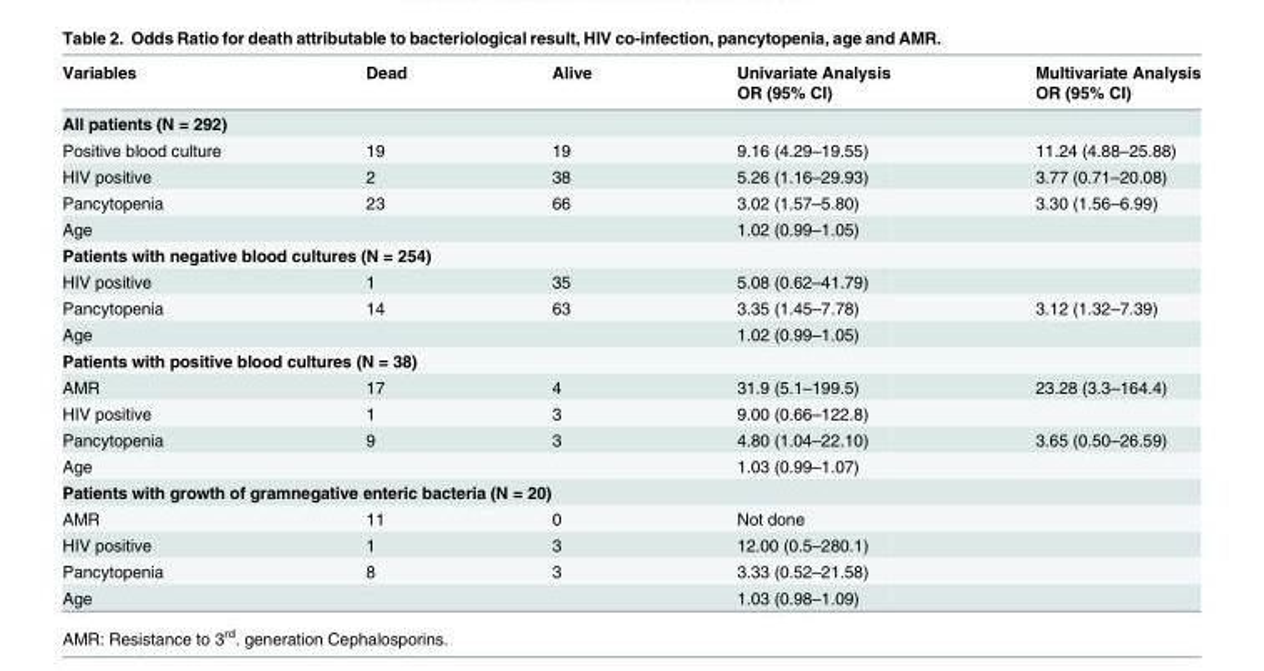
<table><thead><tr><td rowspan="2">Variables</td><td rowspan="2">Dead</td><td rowspan="2">Alive</td><td rowspan="2">Univariate Analysis OR (95% CI)</td><td rowspan="2">Multivariate Analysis OR (95% CI)</td></tr><tr></tr></thead><tbody><tr><td colspan="5">All patients (N = 292)</td></tr><tr><td>Positive blood culture</td><td>19</td><td>19</td><td>9.16 (4.29–19.55)</td><td>11.24 (4.88–25.88)</td></tr><tr><td>HIV positive</td><td>2</td><td>38</td><td>5.26 (1.16–29.93)</td><td>3.77 (0.71–20.08)</td></tr><tr><td>Pancytopenia</td><td>23</td><td>66</td><td>3.02 (1.57–5.80)</td><td>3.30 (1.56–6.99)</td></tr><tr><td>Age</td><td></td><td></td><td>1.02 (0.99–1.05)</td><td></td></tr><tr><td colspan="5">Patients with negative blood cultures (N = 254)</td></tr><tr><td>HIV positive</td><td>1</td><td>35</td><td>5.08 (0.62–41.79)</td><td></td></tr><tr><td>Pancytopenia</td><td>14</td><td>63</td><td>3.35 (1.45–7.78)</td><td>3.12 (1.32–7.39)</td></tr><tr><td>Age</td><td></td><td></td><td>1.02 (0.99–1.05)</td><td></td></tr><tr><td colspan="5">Patients with positive blood cultures (N = 38)</td></tr><tr><td>AMR</td><td>17</td><td>4</td><td>31.9 (5.1–199.5)</td><td>23.28 (3.3–164.4)</td></tr><tr><td>HIV positive</td><td>1</td><td>3</td><td>9.00 (0.66–122.8)</td><td></td></tr><tr><td>Pancytopenia</td><td>9</td><td>3</td><td>4.80 (1.04–22.10)</td><td>3.65 (0.50–26.59)</td></tr><tr><td>Age</td><td></td><td></td><td>1.03 (0.99–1.07)</td><td></td></tr><tr><td colspan="5">Patients with growth of gramnegative enteric bacteria (N = 20)</td></tr><tr><td>AMR</td><td>11</td><td>0</td><td>Not done</td><td></td></tr><tr><td>HIV positive</td><td>1</td><td>3</td><td>12.00 (0.5–280.1)</td><td></td></tr><tr><td>Pancytopenia</td><td>8</td><td>3</td><td>3.33 (0.52–21.58)</td><td></td></tr><tr><td>Age</td><td></td><td></td><td>1.03 (0.98–1.09)</td><td></td></tr></tbody></table>